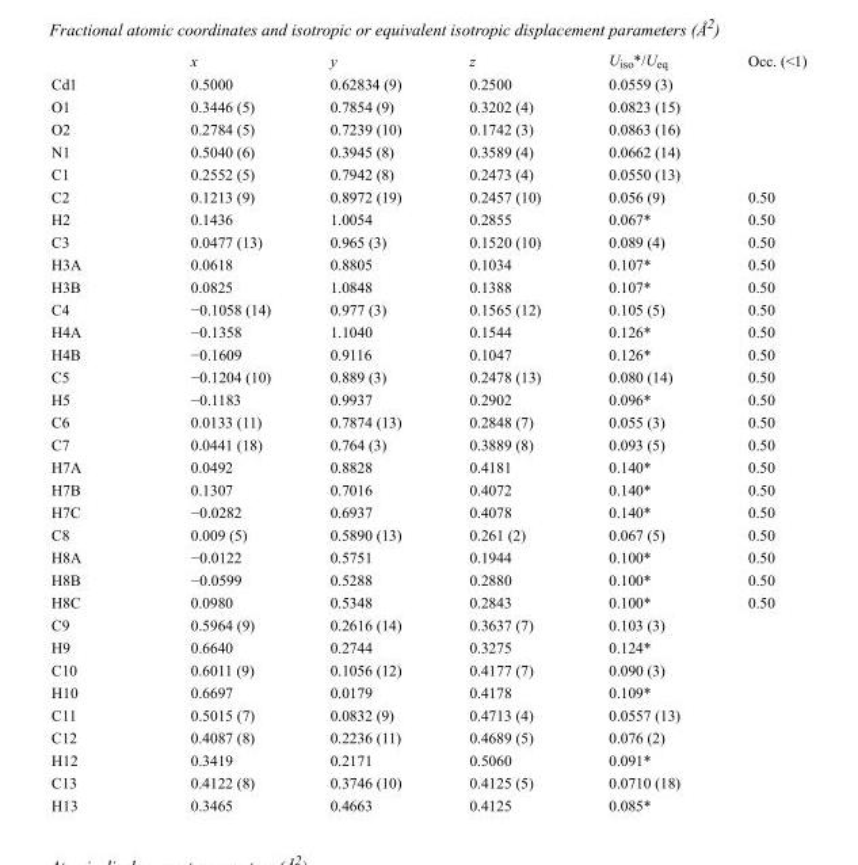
<table><thead><tr><td></td><td>x</td><td>y</td><td>z</td><td>U<sub>iso</sub>*/U<sub>eq</sub></td><td>Occ. (&lt;1)</td></tr></thead><tbody><tr><td>Cd1</td><td>0.5000</td><td>0.62834 (9)</td><td>0.2500</td><td>0.0559 (3)</td><td></td></tr><tr><td>O1</td><td>0.3446 (5)</td><td>0.7854 (9)</td><td>0.3202 (4)</td><td>0.0823 (15)</td><td></td></tr><tr><td>O2</td><td>0.2784 (5)</td><td>0.7239 (10)</td><td>0.1742 (3)</td><td>0.0863 (16)</td><td></td></tr><tr><td>N1</td><td>0.5040 (6)</td><td>0.3945 (8)</td><td>0.3589 (4)</td><td>0.0662 (14)</td><td></td></tr><tr><td>C1</td><td>0.2552 (5)</td><td>0.7942 (8)</td><td>0.2473 (4)</td><td>0.0550 (13)</td><td></td></tr><tr><td>C2</td><td>0.1213 (9)</td><td>0.8972 (19)</td><td>0.2457 (10)</td><td>0.056 (9)</td><td>0.50</td></tr><tr><td>H2</td><td>0.1436</td><td>1.0054</td><td>0.2855</td><td>0.067*</td><td>0.50</td></tr><tr><td>C3</td><td>0.0477 (13)</td><td>0.965 (3)</td><td>0.1520 (10)</td><td>0.089 (4)</td><td>0.50</td></tr><tr><td>H3A</td><td>0.0618</td><td>0.8805</td><td>0.1034</td><td>0.107*</td><td>0.50</td></tr><tr><td>H3B</td><td>0.0825</td><td>1.0848</td><td>0.1388</td><td>0.107*</td><td>0.50</td></tr><tr><td>C4</td><td>−0.1058 (14)</td><td>0.977 (3)</td><td>0.1565 (12)</td><td>0.105 (5)</td><td>0.50</td></tr><tr><td>H4A</td><td>−0.1358</td><td>1.1040</td><td>0.1544</td><td>0.126*</td><td>0.50</td></tr><tr><td>H4B</td><td>−0.1609</td><td>0.9116</td><td>0.1047</td><td>0.126*</td><td>0.50</td></tr><tr><td>C5</td><td>−0.1204 (10)</td><td>0.889 (3)</td><td>0.2478 (13)</td><td>0.080 (14)</td><td>0.50</td></tr><tr><td>H5</td><td>−0.1183</td><td>0.9937</td><td>0.2902</td><td>0.096*</td><td>0.50</td></tr><tr><td>C6</td><td>0.0133 (11)</td><td>0.7874 (13)</td><td>0.2848 (7)</td><td>0.055 (3)</td><td>0.50</td></tr><tr><td>C7</td><td>0.0441 (18)</td><td>0.764 (3)</td><td>0.3889 (8)</td><td>0.093 (5)</td><td>0.50</td></tr><tr><td>H7A</td><td>0.0492</td><td>0.8828</td><td>0.4181</td><td>0.140*</td><td>0.50</td></tr><tr><td>H7B</td><td>0.1307</td><td>0.7016</td><td>0.4072</td><td>0.140*</td><td>0.50</td></tr><tr><td>H7C</td><td>−0.0282</td><td>0.6937</td><td>0.4078</td><td>0.140*</td><td>0.50</td></tr><tr><td>C8</td><td>0.009 (5)</td><td>0.5890 (13)</td><td>0.261 (2)</td><td>0.067 (5)</td><td>0.50</td></tr><tr><td>H8A</td><td>−0.0122</td><td>0.5751</td><td>0.1944</td><td>0.100*</td><td>0.50</td></tr><tr><td>H8B</td><td>−0.0599</td><td>0.5288</td><td>0.2880</td><td>0.100*</td><td>0.50</td></tr><tr><td>H8C</td><td>0.0980</td><td>0.5348</td><td>0.2843</td><td>0.100*</td><td>0.50</td></tr><tr><td>C9</td><td>0.5964 (9)</td><td>0.2616 (14)</td><td>0.3637 (7)</td><td>0.103 (3)</td><td></td></tr><tr><td>H9</td><td>0.6640</td><td>0.2744</td><td>0.3275</td><td>0.124*</td><td></td></tr><tr><td>C10</td><td>0.6011 (9)</td><td>0.1056 (12)</td><td>0.4177 (7)</td><td>0.090 (3)</td><td></td></tr><tr><td>H10</td><td>0.6697</td><td>0.0179</td><td>0.4178</td><td>0.109*</td><td></td></tr><tr><td>C11</td><td>0.5015 (7)</td><td>0.0832 (9)</td><td>0.4713 (4)</td><td>0.0557 (13)</td><td></td></tr><tr><td>C12</td><td>0.4087 (8)</td><td>0.2236 (11)</td><td>0.4689 (5)</td><td>0.076 (2)</td><td></td></tr><tr><td>H12</td><td>0.3419</td><td>0.2171</td><td>0.5060</td><td>0.091*</td><td></td></tr><tr><td>C13</td><td>0.4122 (8)</td><td>0.3746 (10)</td><td>0.4125 (5)</td><td>0.0710 (18)</td><td></td></tr><tr><td>H13</td><td>0.3465</td><td>0.4663</td><td>0.4125</td><td>0.085*</td><td></td></tr></tbody></table>